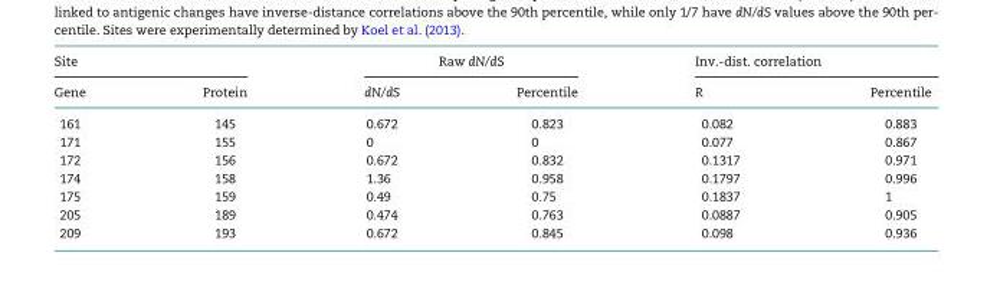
<table><thead><tr><td colspan="2">Site</td><td colspan="2">Raw dN/dS</td><td colspan="2">Inv.-dist. correlation</td></tr><tr><td>Gene</td><td>Protein</td><td>dN/dS</td><td>Percentile</td><td>R</td><td>Percentile</td></tr></thead><tbody><tr><td>161</td><td>145</td><td>0.672</td><td>0.823</td><td>0.082</td><td>0.883</td></tr><tr><td>171</td><td>155</td><td>0</td><td>0</td><td>0.077</td><td>0.867</td></tr><tr><td>172</td><td>156</td><td>0.672</td><td>0.832</td><td>0.1317</td><td>0.971</td></tr><tr><td>174</td><td>158</td><td>1.36</td><td>0.958</td><td>0.1797</td><td>0.996</td></tr><tr><td>175</td><td>159</td><td>0.49</td><td>0.75</td><td>0.1837</td><td>1</td></tr><tr><td>205</td><td>189</td><td>0.474</td><td>0.763</td><td>0.0887</td><td>0.905</td></tr><tr><td>209</td><td>193</td><td>0.672</td><td>0.845</td><td>0.098</td><td>0.936</td></tr></tbody></table>